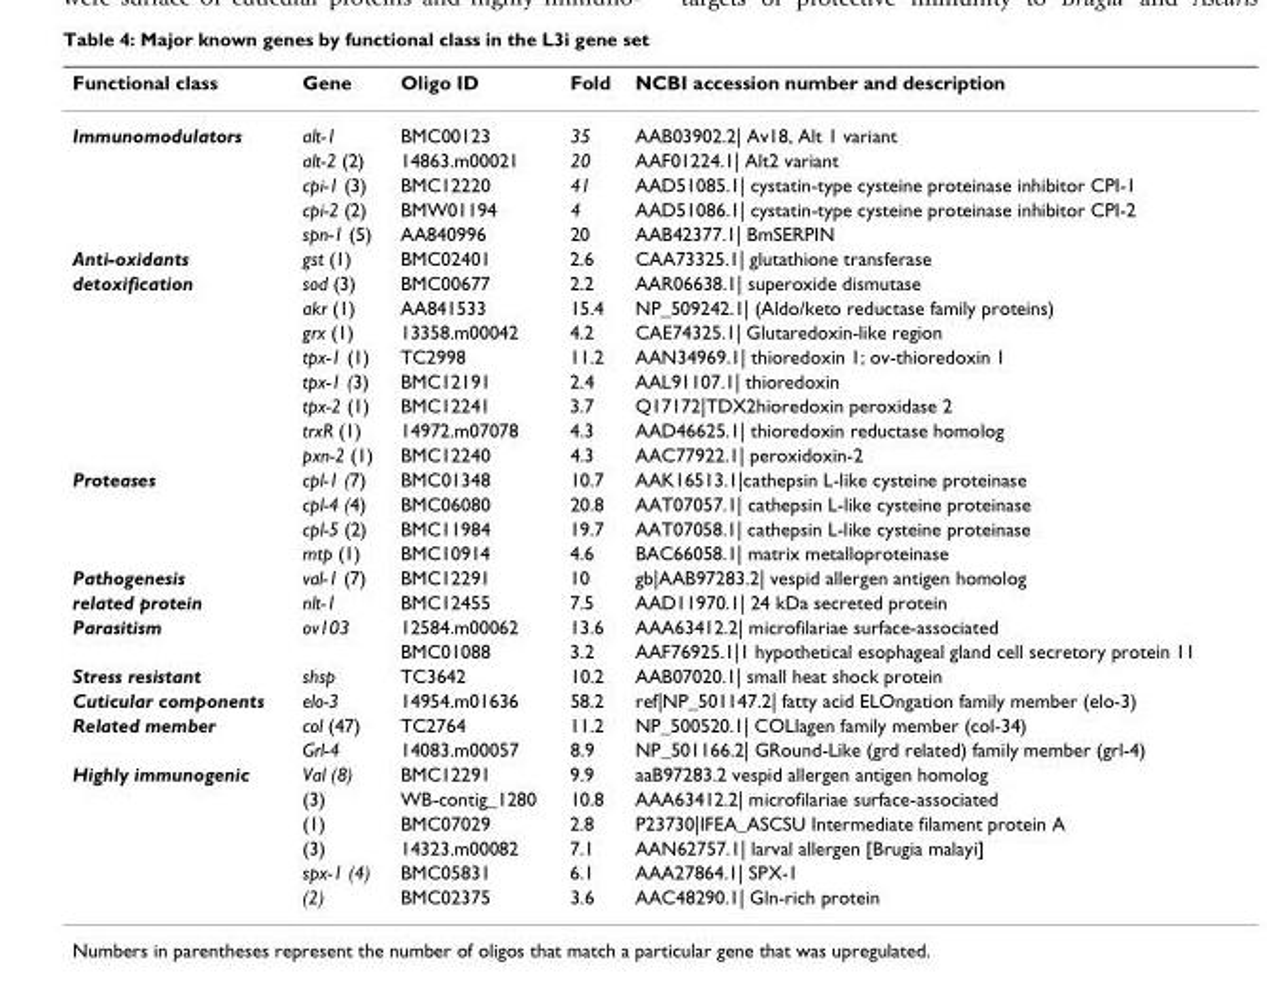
<table><thead><tr><td>Functional class</td><td>Gene</td><td>Oligo ID</td><td>Fold</td><td>NCBI accession number and description</td></tr></thead><tbody><tr><td rowspan="5">Immunomodulators</td><td>alt-1</td><td>BMC00123</td><td>35</td><td>AAB03902.2| Av18, Alt 1 variant</td></tr><tr><td>alt-2 (2)</td><td>14863.m00021</td><td>20</td><td>AAF01224.1| Alt2 variant</td></tr><tr><td>cpi-1 (3)</td><td>BMC12220</td><td>41</td><td>AAD51085.1| cystatin-type cysteine proteinase inhibitor CPI-1</td></tr><tr><td>cpi-2 (2)</td><td>BMW01194</td><td>4</td><td>AAD51086.1| cystatin-type cysteine proteinase inhibitor CPI-2</td></tr><tr><td>spn-1 (5)</td><td>AA840996</td><td>20</td><td>AAB42377.1| BmSERPIN</td></tr><tr><td>Anti-oxidants</td><td>gst (1)</td><td>BMC02401</td><td>2.6</td><td>CAA73325.1| glutathione transferase</td></tr><tr><td rowspan="8">detoxification</td><td>sod (3)</td><td>BMC00677</td><td>2.2</td><td>AAR06638.1| superoxide dismutase</td></tr><tr><td>akr (1)</td><td>AA841533</td><td>15.4</td><td>NP_509242.1| (Aldo/keto reductase family proteins)</td></tr><tr><td>grx (1)</td><td>13358.m00042</td><td>4.2</td><td>CAE74325.1| Glutaredoxin-like region</td></tr><tr><td>tpx-1 (1)</td><td>TC2998</td><td>11.2</td><td>AAN34969.1| thioredoxin 1; ov-thioredoxin 1</td></tr><tr><td>tpx-1 (3)</td><td>BMC12191</td><td>2.4</td><td>AAL91107.1| thioredoxin</td></tr><tr><td>tpx-2 (1)</td><td>BMC12241</td><td>3.7</td><td>Q17172|TDX2hioredoxin peroxidase 2</td></tr><tr><td>trxR (1)</td><td>14972.m07078</td><td>4.3</td><td>AAD46625.1| thioredoxin reductase homolog</td></tr><tr><td>pxn-2 (1)</td><td>BMC12240</td><td>4.3</td><td>AAC77922.1| peroxidoxin-2</td></tr><tr><td rowspan="4">Proteases</td><td>cpl-1 (7)</td><td>BMC01348</td><td>10.7</td><td>AAK16513.1|cathepsin L-like cysteine proteinase</td></tr><tr><td>cpl-4 (4)</td><td>BMC06080</td><td>20.8</td><td>AAT07057.1| cathepsin L-like cysteine proteinase</td></tr><tr><td>cpl-5 (2)</td><td>BMC11984</td><td>19.7</td><td>AAT07058.1| cathepsin L-like cysteine proteinase</td></tr><tr><td>mtp (1)</td><td>BMC10914</td><td>4.6</td><td>BAC66058.1| matrix metalloproteinase</td></tr><tr><td>Pathogenesis</td><td>val-1 (7)</td><td>BMC12291</td><td>10</td><td>gb|AAB97283.2| vespid allergen antigen homolog</td></tr><tr><td>related protein</td><td>nlt-1</td><td>BMC12455</td><td>7.5</td><td>AAD11970.1| 24 kDa secreted protein</td></tr><tr><td rowspan="2">Parasitism</td><td>ov103</td><td>12584.m00062</td><td>13.6</td><td>AAA63412.2| microfilariae surface-associated</td></tr><tr><td></td><td>BMC01088</td><td>3.2</td><td>AAF76925.1|1 hypothetical esophageal gland cell secretory protein 11</td></tr><tr><td>Stress resistant</td><td>shsp</td><td>TC3642</td><td>10.2</td><td>AAB07020.1| small heat shock protein</td></tr><tr><td>Cuticular components</td><td>elo-3</td><td>14954.m01636</td><td>58.2</td><td>ref|NP_501147.2| fatty acid ELOngation family member (elo-3)</td></tr><tr><td rowspan="2">Related member</td><td>col (47)</td><td>TC2764</td><td>11.2</td><td>NP_500520.1| COLlagen family member (col-34)</td></tr><tr><td>Grl-4</td><td>14083.m00057</td><td>8.9</td><td>NP_501166.2| GRound-Like (grd related) family member (grl-4)</td></tr><tr><td rowspan="6">Highly immunogenic</td><td>Val (8)</td><td>BMC12291</td><td>9.9</td><td>aaB97283.2 vespid allergen antigen homolog</td></tr><tr><td>(3)</td><td>WB-contig_1280</td><td>10.8</td><td>AAA63412.2| microfilariae surface-associated</td></tr><tr><td>(1)</td><td>BMC07029</td><td>2.8</td><td>P23730|IFEA_ASCSU Intermediate filament protein A</td></tr><tr><td>(3)</td><td>14323.m00082</td><td>7.1</td><td>AAN62757.1| larval allergen [Brugia malayi]</td></tr><tr><td>spx-1 (4)</td><td>BMC05831</td><td>6.1</td><td>AAA27864.1| SPX-1</td></tr><tr><td>(2)</td><td>BMC02375</td><td>3.6</td><td>AAC48290.1| Gln-rich protein</td></tr></tbody></table>